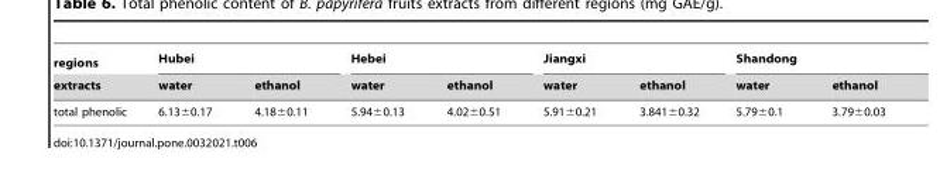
<table><thead><tr><td rowspan="2">regions extracts</td><td colspan="2">Hubei</td><td colspan="2">Hebei</td><td colspan="2">Jiangxi</td><td colspan="2">Shandong</td></tr><tr><td>water</td><td>ethanol</td><td>water</td><td>ethanol</td><td>water</td><td>ethanol</td><td>water</td><td>ethanol</td></tr></thead><tbody><tr><td>total phenolic</td><td>6.13±0.17</td><td>4.18±0.11</td><td>5.94±0.13</td><td>4.02±0.51</td><td>5.91±0.21</td><td>3.841±0.32</td><td>5.79±0.1</td><td>3.79±0.03</td></tr></tbody></table>